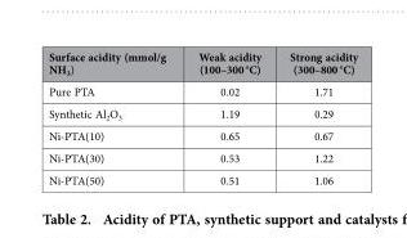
<table><thead><tr><td>Surface acidity (mmol/g NH<sub>3</sub>)</td><td>Weak acidity (100–300 °C)</td><td>Strong acidity (300–800 °C)</td></tr></thead><tbody><tr><td>Pure PTA</td><td>0.02</td><td>1.71</td></tr><tr><td>Synthetic Al<sub>2</sub>O<sub>3</sub></td><td>1.19</td><td>0.29</td></tr><tr><td>Ni-PTA(10)</td><td>0.65</td><td>0.67</td></tr><tr><td>Ni-PTA(30)</td><td>0.53</td><td>1.22</td></tr><tr><td>Ni-PTA(50)</td><td>0.51</td><td>1.06</td></tr></tbody></table>